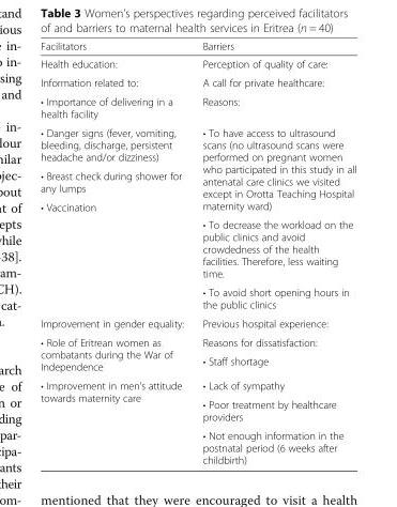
<table><thead><tr><td>Facilitators</td><td>Barriers</td></tr></thead><tbody><tr><td>Health education:</td><td>Perception of quality of care:</td></tr><tr><td>Information related to:</td><td>A call for private healthcare:</td></tr><tr><td>• Importance of delivering in a health facility</td><td>Reasons:</td></tr><tr><td>• Danger signs (fever, vomiting, bleeding, discharge, persistent headache and/or dizziness)</td><td rowspan="3">• To have access to ultrasound scans (no ultrasound scans were performed on pregnant women who participated in this study in all antenatal care clinics we visited except in Orotta Teaching Hospital maternity ward)</td></tr><tr><td>• Breast check during shower for any lumps</td></tr><tr><td rowspan="3">• Vaccination</td></tr><tr><td>• To decrease the workload on the public clinics and avoid crowdedness of the health facilities. Therefore, less waiting time.</td></tr><tr><td>• To avoid short opening hours in the public clinics</td></tr><tr><td>Improvement in gender equality:</td><td>Previous hospital experience:</td></tr><tr><td rowspan="2">• Role of Eritrean women as combatants during the War of Independence</td><td>Reasons for dissatisfaction:</td></tr><tr><td>• Staff shortage</td></tr><tr><td rowspan="3">• Improvement in men’s attitude towards maternity care</td><td>• Lack of sympathy</td></tr><tr><td>• Poor treatment by healthcare providers</td></tr><tr><td>• Not enough information in the postnatal period (6 weeks after childbirth)</td></tr></tbody></table>